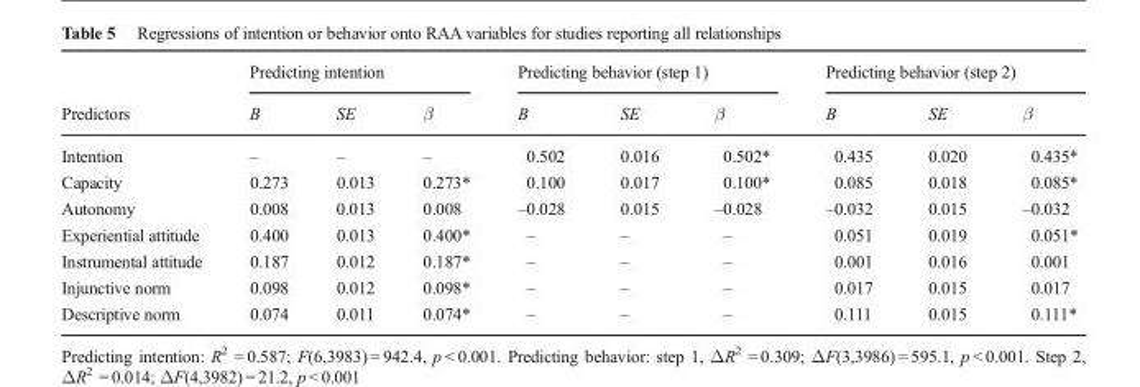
<table><thead><tr><td rowspan="2">Predictors</td><td colspan="3">Predicting intention</td><td colspan="3">Predicting behavior (step 1)</td><td colspan="3">Predicting behavior (step 2)</td></tr><tr><td>B</td><td>SE</td><td>β</td><td>B</td><td>SE</td><td>β</td><td>B</td><td>SE</td><td>β</td></tr></thead><tbody><tr><td>Intention</td><td>–</td><td>–</td><td>–</td><td>0.502</td><td>0.016</td><td>0.502*</td><td>0.435</td><td>0.020</td><td>0.435*</td></tr><tr><td>Capacity</td><td>0.273</td><td>0.013</td><td>0.273*</td><td>0.100</td><td>0.017</td><td>0.100*</td><td>0.085</td><td>0.018</td><td>0.085*</td></tr><tr><td>Autonomy</td><td>0.008</td><td>0.013</td><td>0.008</td><td>–0.028</td><td>0.015</td><td>–0.028</td><td>–0.032</td><td>0.015</td><td>–0.032</td></tr><tr><td>Experiential attitude</td><td>0.400</td><td>0.013</td><td>0.400*</td><td>–</td><td>–</td><td>–</td><td>0.051</td><td>0.019</td><td>0.051*</td></tr><tr><td>Instrumental attitude</td><td>0.187</td><td>0.012</td><td>0.187*</td><td>–</td><td>–</td><td>–</td><td>0.001</td><td>0.016</td><td>0.001</td></tr><tr><td>Injunctive norm</td><td>0.098</td><td>0.012</td><td>0.098*</td><td>–</td><td>–</td><td>–</td><td>0.017</td><td>0.015</td><td>0.017</td></tr><tr><td>Descriptive norm</td><td>0.074</td><td>0.011</td><td>0.074*</td><td>–</td><td>–</td><td>–</td><td>0.111</td><td>0.015</td><td>0.111*</td></tr></tbody></table>